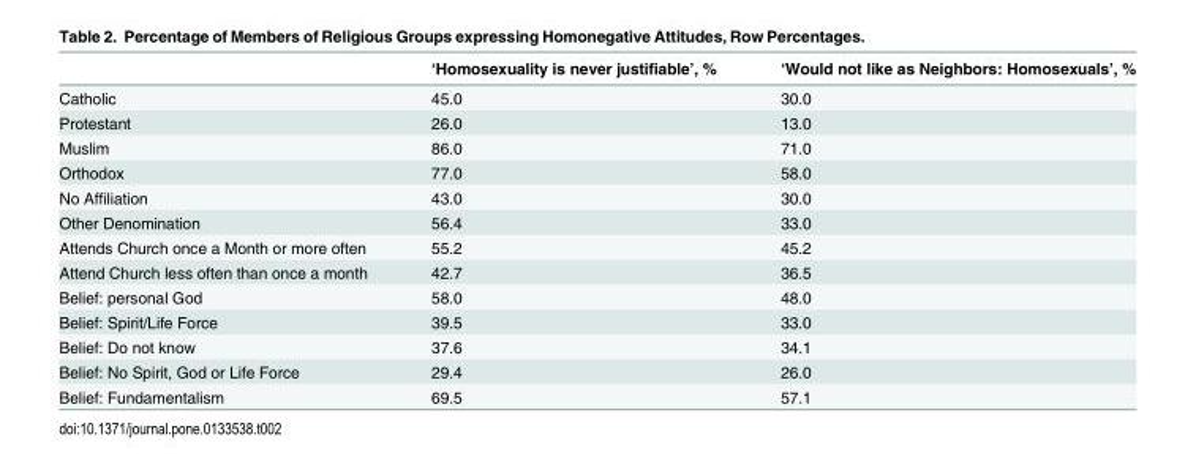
<table><thead><tr><td></td><td>‘Homosexuality is never justifiable’, %</td><td>‘Would not like as Neighbors: Homosexuals’, %</td></tr></thead><tbody><tr><td>Catholic</td><td>45.0</td><td>30.0</td></tr><tr><td>Protestant</td><td>26.0</td><td>13.0</td></tr><tr><td>Muslim</td><td>86.0</td><td>71.0</td></tr><tr><td>Orthodox</td><td>77.0</td><td>58.0</td></tr><tr><td>No Affiliation</td><td>43.0</td><td>30.0</td></tr><tr><td>Other Denomination</td><td>56.4</td><td>33.0</td></tr><tr><td>Attends Church once a Month or more often</td><td>55.2</td><td>45.2</td></tr><tr><td>Attend Church less often than once a month</td><td>42.7</td><td>36.5</td></tr><tr><td>Belief: personal God</td><td>58.0</td><td>48.0</td></tr><tr><td>Belief: Spirit/Life Force</td><td>39.5</td><td>33.0</td></tr><tr><td>Belief: Do not know</td><td>37.6</td><td>34.1</td></tr><tr><td>Belief: No Spirit, God or Life Force</td><td>29.4</td><td>26.0</td></tr><tr><td>Belief: Fundamentalism</td><td>69.5</td><td>57.1</td></tr></tbody></table>